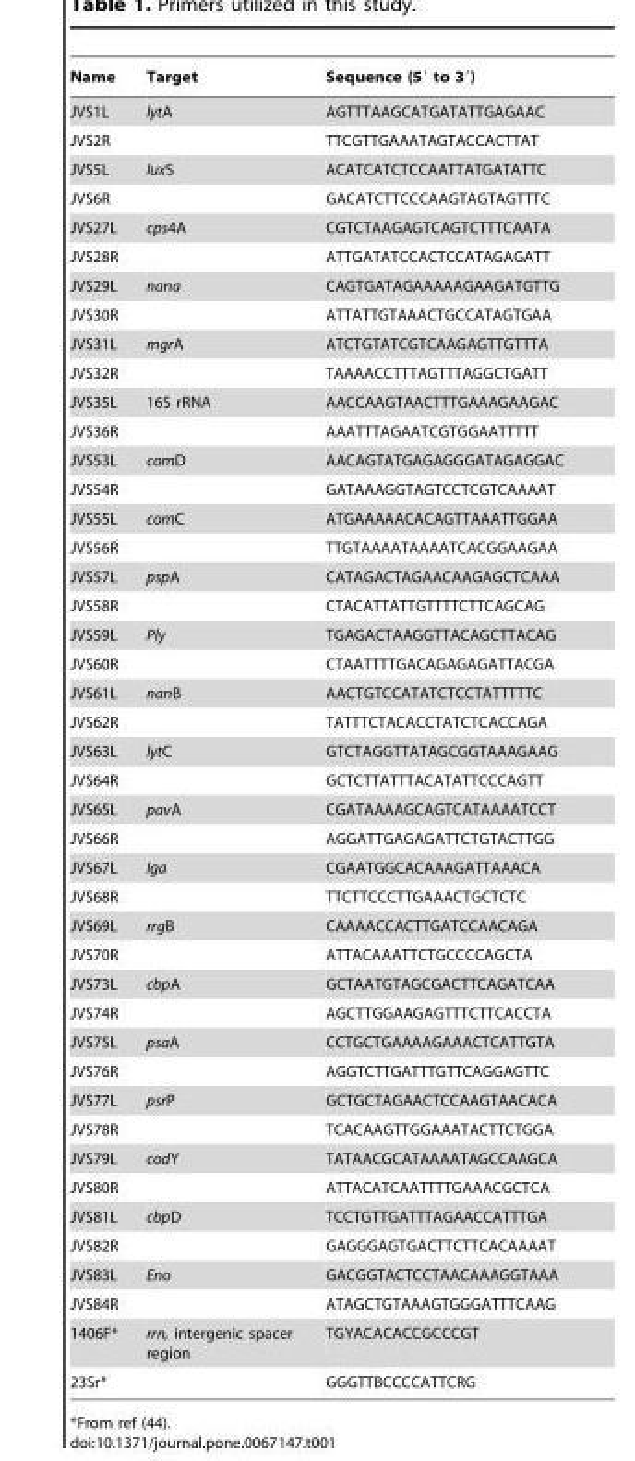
<table><thead><tr><td>Name</td><td>Target</td><td>Sequence (5′ to 3′)</td></tr></thead><tbody><tr><td>JVS1L</td><td>lytA</td><td>AGTTTAAGCATGATATTGAGAAC</td></tr><tr><td>JVS2R</td><td></td><td>TTCGTTGAAATAGTACCACTTAT</td></tr><tr><td>JVS5L</td><td>luxS</td><td>ACATCATCTCCAATTATGATATTC</td></tr><tr><td>JVS6R</td><td></td><td>GACATCTTCCCAAGTAGTAGTTTC</td></tr><tr><td>JVS27L</td><td>cps4A</td><td>CGTCTAAGAGTCAGTCTTTCAATA</td></tr><tr><td>JVS28R</td><td></td><td>ATTGATATCCACTCCATAGAGATT</td></tr><tr><td>JVS29L</td><td>nana</td><td>CAGTGATAGAAAAAGAAGATGTTG</td></tr><tr><td>JVS30R</td><td></td><td>ATTATTGTAAACTGCCATAGTGAA</td></tr><tr><td>JVS31L</td><td>mgrA</td><td>ATCTGTATCGTCAAGAGTTGTTTA</td></tr><tr><td>JVS32R</td><td></td><td>TAAAACCTTTAGTTTAGGCTGATT</td></tr><tr><td>JVS35L</td><td>16S rRNA</td><td>AACCAAGTAACTTTGAAAGAAGAC</td></tr><tr><td>JVS36R</td><td></td><td>AAATTTAGAATCGTGGAATTTTT</td></tr><tr><td>JVS53L</td><td>comD</td><td>AACAGTATGAGAGGGATAGAGGAC</td></tr><tr><td>JVS54R</td><td></td><td>GATAAAGGTAGTCCTCGTCAAAAT</td></tr><tr><td>JVS55L</td><td>comC</td><td>ATGAAAAACACAGTTAAATTGGAA</td></tr><tr><td>JVS56R</td><td></td><td>TTGTAAAATAAAATCACGGAAGAA</td></tr><tr><td>JVS57L</td><td>pspA</td><td>CATAGACTAGAACAAGAGCTCAAA</td></tr><tr><td>JVS58R</td><td></td><td>CTACATTATTGTTTTCTTCAGCAG</td></tr><tr><td>JVS59L</td><td>Ply</td><td>TGAGACTAAGGTTACAGCTTACAG</td></tr><tr><td>JVS60R</td><td></td><td>CTAATTTTGACAGAGAGATTACGA</td></tr><tr><td>JVS61L</td><td>nanB</td><td>AACTGTCCATATCTCCTATTTTTC</td></tr><tr><td>JVS62R</td><td></td><td>TATTTCTACACCTATCTCACCAGA</td></tr><tr><td>JVS63L</td><td>lytC</td><td>GTCTAGGTTATAGCGGTAAAGAAG</td></tr><tr><td>JVS64R</td><td></td><td>GCTCTTATTTACATATTCCCAGTT</td></tr><tr><td>JVS65L</td><td>pavA</td><td>CGATAAAAGCAGTCATAAAATCCT</td></tr><tr><td>JVS66R</td><td></td><td>AGGATTGAGAGATTCTGTACTTGG</td></tr><tr><td>JVS67L</td><td>Iga</td><td>CGAATGGCACAAAGATTAAACA</td></tr><tr><td>JVS68R</td><td></td><td>TTCTTCCCTTGAAACTGCTCTC</td></tr><tr><td>JVS69L</td><td>rrgB</td><td>CAAAACCACTTGATCCAACAGA</td></tr><tr><td>JVS70R</td><td></td><td>ATTACAAATTCTGCCCCAGCTA</td></tr><tr><td>JVS73L</td><td>cbpA</td><td>GCTAATGTAGCGACTTCAGATCAA</td></tr><tr><td>JVS74R</td><td></td><td>AGCTTGGAAGAGTTTCTTCACCTA</td></tr><tr><td>JVS75L</td><td>psaA</td><td>CCTGCTGAAAAGAAACTCATTGTA</td></tr><tr><td>JVS76R</td><td></td><td>AGGTCTTGATTTGTTCAGGAGTTC</td></tr><tr><td>JVS77L</td><td>psrP</td><td>GCTGCTAGAACTCCAAGTAACACA</td></tr><tr><td>JVS78R</td><td></td><td>TCACAAGTTGGAAATACTTCTGGA</td></tr><tr><td>JVS79L</td><td>codY</td><td>TATAACGCATAAAATAGCCAAGCA</td></tr><tr><td>JVS80R</td><td></td><td>ATTACATCAATTTTGAAACGCTCA</td></tr><tr><td>JVS81L</td><td>cbpD</td><td>TCCTGTTGATTTAGAACCATTTGA</td></tr><tr><td>JVS82R</td><td></td><td>GAGGGAGTGACTTCTTCACAAAAT</td></tr><tr><td>JVS83L</td><td>Eno</td><td>GACGGTACTCCTAACAAAGGTAAA</td></tr><tr><td>JVS84R</td><td></td><td>ATAGCTGTAAAGTGGGATTTCAAG</td></tr><tr><td>1406F*</td><td>rrn, intergenic spacer region</td><td>TGYACACACCGCCCGT</td></tr><tr><td>23Sr*</td><td></td><td>GGGTTBCCCCATTCRG</td></tr></tbody></table>